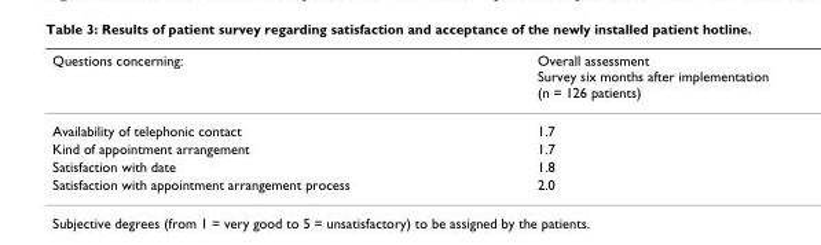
<table><thead><tr><td>Questions concerning:</td><td>Overall assessment Survey six months after implementation (n = 126 patients)</td></tr></thead><tbody><tr><td>Availability of telephonic contact</td><td>1.7</td></tr><tr><td>Kind of appointment arrangement</td><td>1.7</td></tr><tr><td>Satisfaction with date</td><td>1.8</td></tr><tr><td>Satisfaction with appointment arrangement process</td><td>2.0</td></tr></tbody></table>